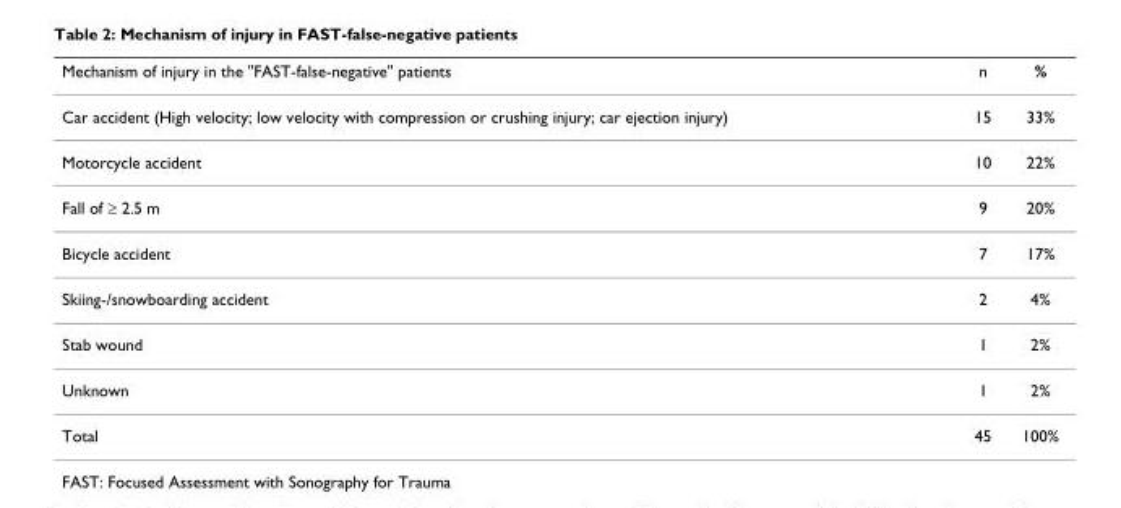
<table><thead><tr><td>Mechanism of injury in the &quot;FAST-false-negative&quot; patients</td><td>n</td><td>%</td></tr></thead><tbody><tr><td>Car accident (High velocity; low velocity with compression or crushing injury; car ejection injury)</td><td>15</td><td>33%</td></tr><tr><td>Motorcycle accident</td><td>10</td><td>22%</td></tr><tr><td>Fall of ≥ 2.5 m</td><td>9</td><td>20%</td></tr><tr><td>Bicycle accident</td><td>7</td><td>17%</td></tr><tr><td>Skiing-/snowboarding accident</td><td>2</td><td>4%</td></tr><tr><td>Stab wound</td><td>1</td><td>2%</td></tr><tr><td>Unknown</td><td>1</td><td>2%</td></tr><tr><td>Total</td><td>45</td><td>100%</td></tr></tbody></table>